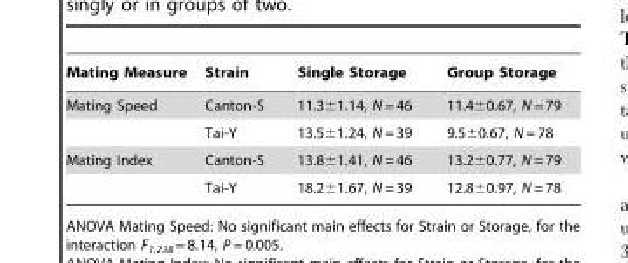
<table><thead><tr><td>Mating Measure</td><td>Strain</td><td>Single Storage</td><td>Group Storage</td></tr></thead><tbody><tr><td rowspan="2">Mating Speed</td><td>Canton-S</td><td>11.3±1.14, N = 46</td><td>11.4±0.67, N = 79</td></tr><tr><td>Tai-Y</td><td>13.5±1.24, N = 39</td><td>9.5±0.67, N = 78</td></tr><tr><td rowspan="2">Mating Index</td><td>Canton-S</td><td>13.8±1.41, N = 46</td><td>13.2±0.77, N = 79</td></tr><tr><td>Tai-Y</td><td>18.2±1.67, N = 39</td><td>12.8±0.97, N = 78</td></tr></tbody></table>